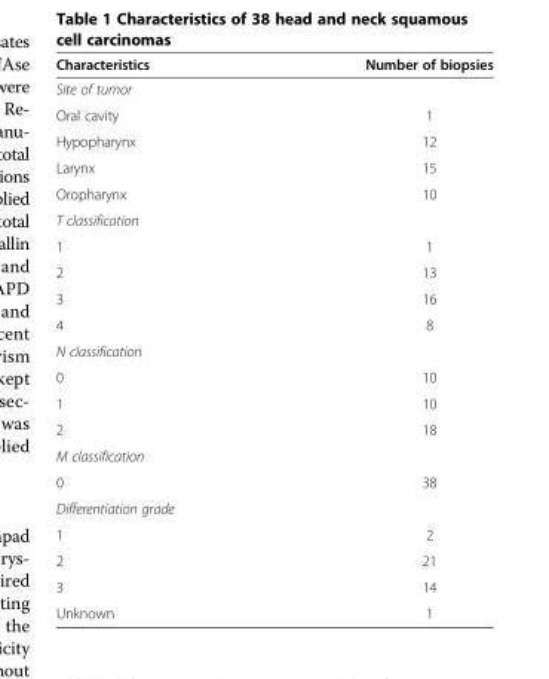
<table><thead><tr><td>Characteristics</td><td>Number of biopsies</td></tr></thead><tbody><tr><td colspan="2">Site of tumor</td></tr><tr><td>Oral cavity</td><td>1</td></tr><tr><td>Hypopharynx</td><td>12</td></tr><tr><td>Larynx</td><td>15</td></tr><tr><td>Oropharynx</td><td>10</td></tr><tr><td colspan="2">T classification</td></tr><tr><td>1</td><td>1</td></tr><tr><td>2</td><td>13</td></tr><tr><td>3</td><td>16</td></tr><tr><td>4</td><td>8</td></tr><tr><td colspan="2">N classification</td></tr><tr><td>0</td><td>10</td></tr><tr><td>1</td><td>10</td></tr><tr><td>2</td><td>18</td></tr><tr><td colspan="2">M classification</td></tr><tr><td>0</td><td>38</td></tr><tr><td colspan="2">Differentiation grade</td></tr><tr><td>1</td><td>2</td></tr><tr><td>2</td><td>21</td></tr><tr><td>3</td><td>14</td></tr><tr><td>Unknown</td><td>1</td></tr></tbody></table>